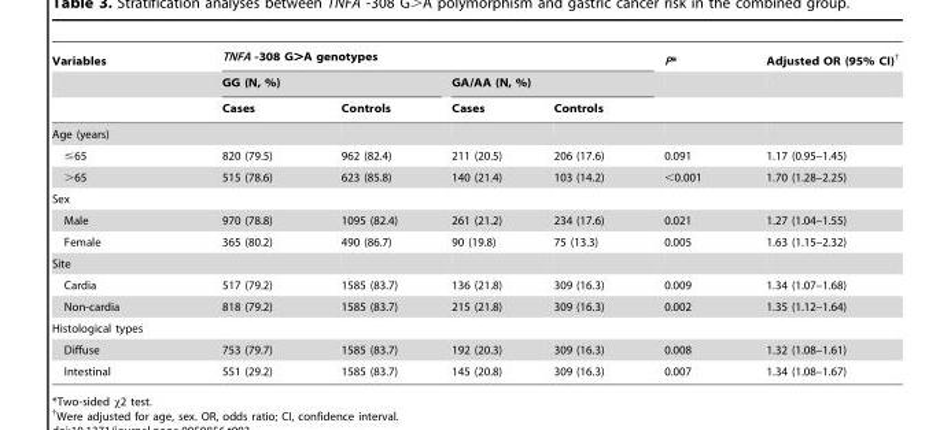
<table><thead><tr><td rowspan="3">Variables</td><td colspan="4">TNFA -308 G&gt;A genotypes</td><td rowspan="3">P*</td><td rowspan="3">Adjusted OR (95% CI)†</td></tr><tr><td colspan="2">GG (N, %)</td><td colspan="2">GA/AA (N, %)</td></tr><tr><td>Cases</td><td>Controls</td><td>Cases</td><td>Controls</td></tr></thead><tbody><tr><td colspan="7">Age (years)</td></tr><tr><td>≤65</td><td>820 (79.5)</td><td>962 (82.4)</td><td>211 (20.5)</td><td>206 (17.6)</td><td>0.091</td><td>1.17 (0.95–1.45)</td></tr><tr><td>&gt;65</td><td>515 (78.6)</td><td>623 (85.8)</td><td>140 (21.4)</td><td>103 (14.2)</td><td>&lt;0.001</td><td>1.70 (1.28–2.25)</td></tr><tr><td colspan="7">Sex</td></tr><tr><td>Male</td><td>970 (78.8)</td><td>1095 (82.4)</td><td>261 (21.2)</td><td>234 (17.6)</td><td>0.021</td><td>1.27 (1.04–1.55)</td></tr><tr><td>Female</td><td>365 (80.2)</td><td>490 (86.7)</td><td>90 (19.8)</td><td>75 (13.3)</td><td>0.005</td><td>1.63 (1.15–2.32)</td></tr><tr><td colspan="7">Site</td></tr><tr><td>Cardia</td><td>517 (79.2)</td><td>1585 (83.7)</td><td>136 (21.8)</td><td>309 (16.3)</td><td>0.009</td><td>1.34 (1.07–1.68)</td></tr><tr><td>Non-cardia</td><td>818 (79.2)</td><td>1585 (83.7)</td><td>215 (21.8)</td><td>309 (16.3)</td><td>0.002</td><td>1.35 (1.12–1.64)</td></tr><tr><td colspan="7">Histological types</td></tr><tr><td>Diffuse</td><td>753 (79.7)</td><td>1585 (83.7)</td><td>192 (20.3)</td><td>309 (16.3)</td><td>0.008</td><td>1.32 (1.08–1.61)</td></tr><tr><td>Intestinal</td><td>551 (29.2)</td><td>1585 (83.7)</td><td>145 (20.8)</td><td>309 (16.3)</td><td>0.007</td><td>1.34 (1.08–1.67)</td></tr></tbody></table>